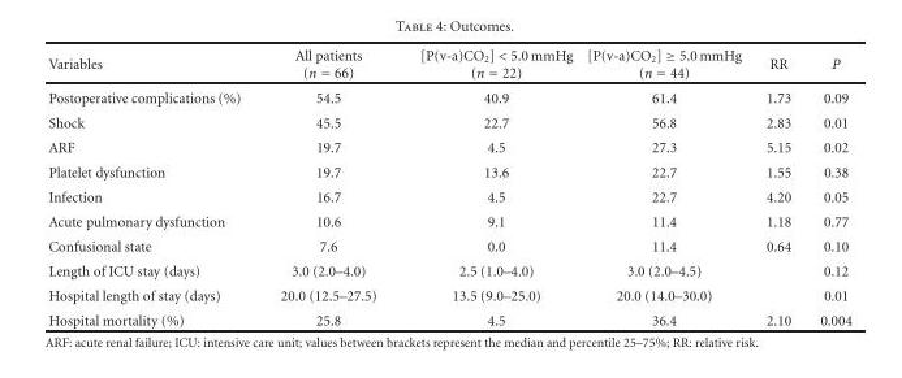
<table><thead><tr><td>Variables</td><td>All patients (n = 66)</td><td>[P(v-a)CO<sub>2</sub>] &lt; 5.0 mmHg (n = 22)</td><td>[P(v-a)CO<sub>2</sub>] ≥ 5.0 mmHg (n = 44)</td><td>RR</td><td>P</td></tr></thead><tbody><tr><td>Postoperative complications (%)</td><td>54.5</td><td>40.9</td><td>61.4</td><td>1.73</td><td>0.09</td></tr><tr><td>Shock</td><td>45.5</td><td>22.7</td><td>56.8</td><td>2.83</td><td>0.01</td></tr><tr><td>ARF</td><td>19.7</td><td>4.5</td><td>27.3</td><td>5.15</td><td>0.02</td></tr><tr><td>Platelet dysfunction</td><td>19.7</td><td>13.6</td><td>22.7</td><td>1.55</td><td>0.38</td></tr><tr><td>Infection</td><td>16.7</td><td>4.5</td><td>22.7</td><td>4.20</td><td>0.05</td></tr><tr><td>Acute pulmonary dysfunction</td><td>10.6</td><td>9.1</td><td>11.4</td><td>1.18</td><td>0.77</td></tr><tr><td>Confusional state</td><td>7.6</td><td>0.0</td><td>11.4</td><td>0.64</td><td>0.10</td></tr><tr><td>Length of ICU stay (days)</td><td>3.0 (2.0–4.0)</td><td>2.5 (1.0–4.0)</td><td>3.0 (2.0–4.5)</td><td></td><td>0.12</td></tr><tr><td>Hospital length of stay (days)</td><td>20.0 (12.5–27.5)</td><td>13.5 (9.0–25.0)</td><td>20.0 (14.0–30.0)</td><td></td><td>0.01</td></tr><tr><td>Hospital mortality (%)</td><td>25.8</td><td>4.5</td><td>36.4</td><td>2.10</td><td>0.004</td></tr></tbody></table>